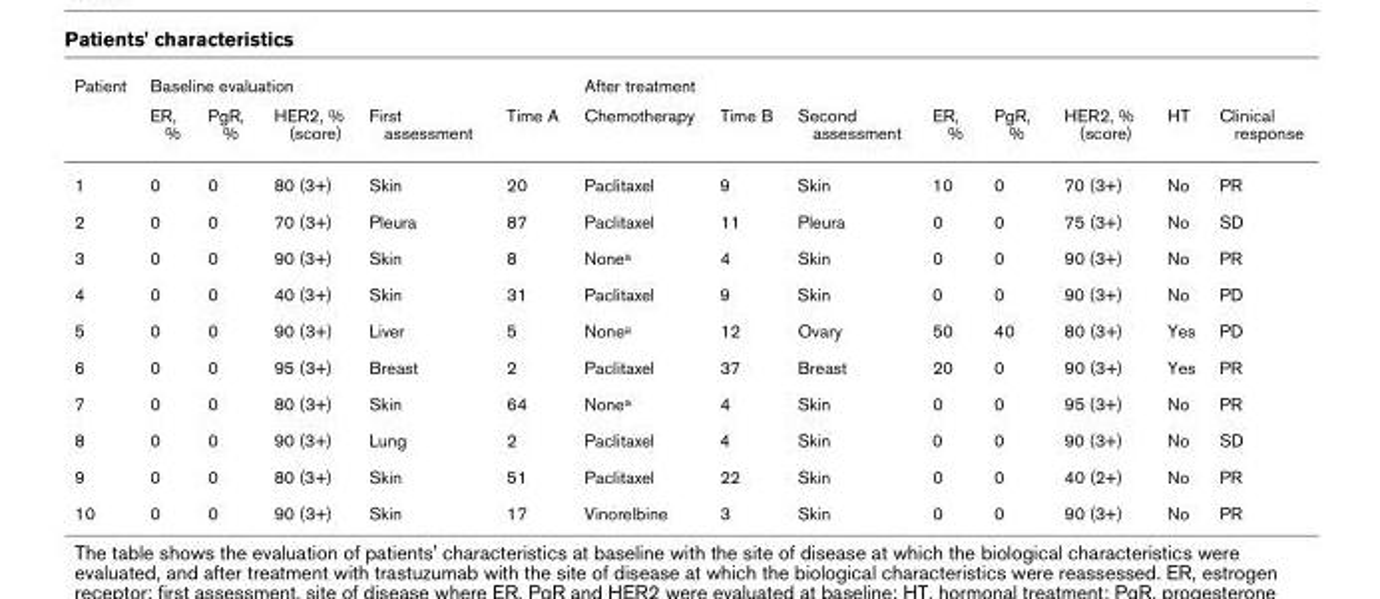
<table><thead><tr><td rowspan="2">Patient</td><td colspan="5">Baseline evaluation</td><td colspan="8">After treatment</td></tr><tr><td>ER, %</td><td>PgR, %</td><td>HER2, % (score)</td><td>First assessment</td><td>Time A</td><td>Chemotherapy</td><td>Time B</td><td>Second assessment</td><td>ER, %</td><td>PgR, %</td><td>HER2, % (score)</td><td>HT</td><td>Clinical response</td></tr></thead><tbody><tr><td>1</td><td>0</td><td>0</td><td>80 (3+)</td><td>Skin</td><td>20</td><td>Paclitaxel</td><td>9</td><td>Skin</td><td>10</td><td>0</td><td>70 (3+)</td><td>No</td><td>PR</td></tr><tr><td>2</td><td>0</td><td>0</td><td>70 (3+)</td><td>Pleura</td><td>87</td><td>Paclitaxel</td><td>11</td><td>Pleura</td><td>0</td><td>0</td><td>75 (3+)</td><td>No</td><td>SD</td></tr><tr><td>3</td><td>0</td><td>0</td><td>90 (3+)</td><td>Skin</td><td>8</td><td>Nonea</td><td>4</td><td>Skin</td><td>0</td><td>0</td><td>90 (3+)</td><td>No</td><td>PR</td></tr><tr><td>4</td><td>0</td><td>0</td><td>40 (3+)</td><td>Skin</td><td>31</td><td>Paclitaxel</td><td>9</td><td>Skin</td><td>0</td><td>0</td><td>90 (3+)</td><td>No</td><td>PD</td></tr><tr><td>5</td><td>0</td><td>0</td><td>90 (3+)</td><td>Liver</td><td>5</td><td>Nonea</td><td>12</td><td>Ovary</td><td>50</td><td>40</td><td>80 (3+)</td><td>Yes</td><td>PD</td></tr><tr><td>6</td><td>0</td><td>0</td><td>95 (3+)</td><td>Breast</td><td>2</td><td>Paclitaxel</td><td>37</td><td>Breast</td><td>20</td><td>0</td><td>90 (3+)</td><td>Yes</td><td>PR</td></tr><tr><td>7</td><td>0</td><td>0</td><td>80 (3+)</td><td>Skin</td><td>64</td><td>Nonea</td><td>4</td><td>Skin</td><td>0</td><td>0</td><td>95 (3+)</td><td>No</td><td>PR</td></tr><tr><td>8</td><td>0</td><td>0</td><td>90 (3+)</td><td>Lung</td><td>2</td><td>Paclitaxel</td><td>4</td><td>Skin</td><td>0</td><td>0</td><td>90 (3+)</td><td>No</td><td>SD</td></tr><tr><td>9</td><td>0</td><td>0</td><td>80 (3+)</td><td>Skin</td><td>51</td><td>Paclitaxel</td><td>22</td><td>Skin</td><td>0</td><td>0</td><td>40 (2+)</td><td>No</td><td>PR</td></tr><tr><td>10</td><td>0</td><td>0</td><td>90 (3+)</td><td>Skin</td><td>17</td><td>Vinorelbine</td><td>3</td><td>Skin</td><td>0</td><td>0</td><td>90 (3+)</td><td>No</td><td>PR</td></tr></tbody></table>